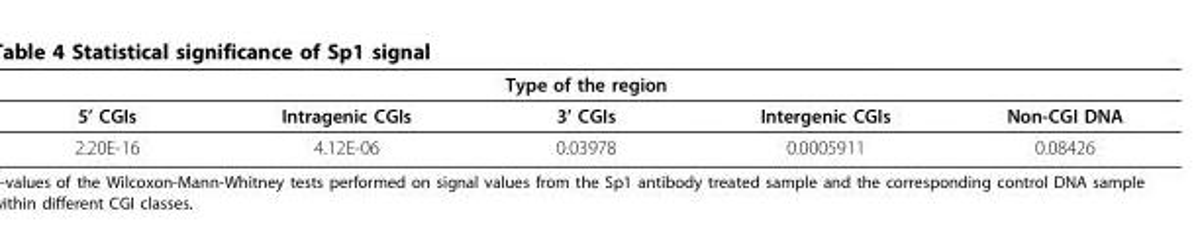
<table><thead><tr><td colspan="5">Type of the region</td></tr><tr><td>5’ CGIs</td><td>Intragenic CGIs</td><td>3’ CGIs</td><td>Intergenic CGIs</td><td>Non-CGI DNA</td></tr></thead><tbody><tr><td>2.20E-16</td><td>4.12E-06</td><td>0.03978</td><td>0.0005911</td><td>0.08426</td></tr></tbody></table>